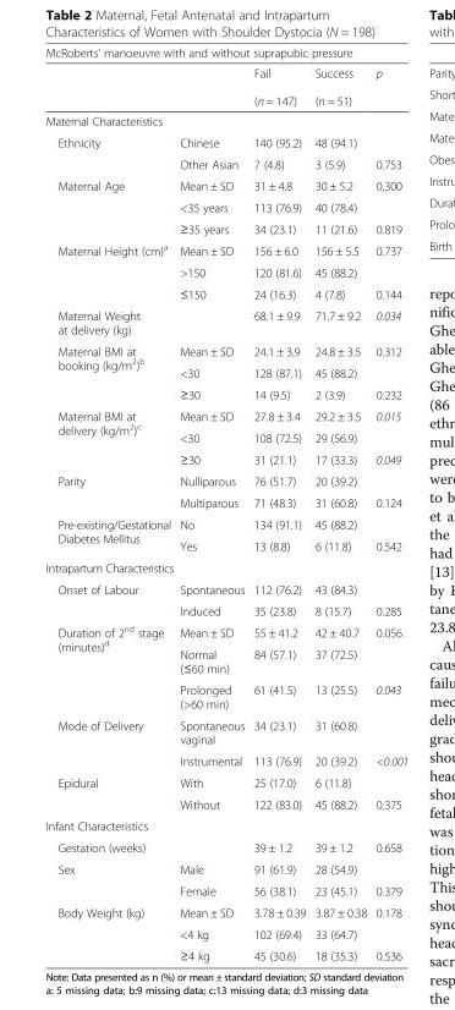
<table><thead><tr><td colspan="5">McRoberts’ manoeuvre with and without suprapubic pressure</td></tr><tr><td></td><td></td><td>Fail (n = 147)</td><td>Success (n = 51)</td><td>p</td></tr></thead><tbody><tr><td colspan="5">Maternal Characteristics</td></tr><tr><td rowspan="2">Ethnicity</td><td>Chinese</td><td>140 (95.2)</td><td>48 (94.1)</td><td></td></tr><tr><td>Other Asian</td><td>7 (4.8)</td><td>3 (5.9)</td><td>0.753</td></tr><tr><td rowspan="3">Maternal Age</td><td>Mean ± SD</td><td>31 ± 4.8</td><td>30 ± 5.2</td><td>0.300</td></tr><tr><td>&lt;35 years</td><td>113 (76.9)</td><td>40 (78.4)</td><td></td></tr><tr><td>≥35 years</td><td>34 (23.1)</td><td>11 (21.6)</td><td>0.819</td></tr><tr><td rowspan="3">Maternal Height (cm)<sup>a</sup></td><td>Mean ± SD</td><td>156 ± 6.0</td><td>156 ± 5.5</td><td>0.737</td></tr><tr><td>&gt;150</td><td>120 (81.6)</td><td>45 (88.2)</td><td></td></tr><tr><td>≤150</td><td>24 (16.3)</td><td>4 (7.8)</td><td>0.144</td></tr><tr><td>Maternal Weight at delivery (kg)</td><td></td><td>68.1 ± 9.9</td><td>71.7 ± 9.2</td><td>0.034</td></tr><tr><td rowspan="3">Maternal BMI at booking (kg/m<sup>2</sup>)<sup>b</sup></td><td>Mean ± SD</td><td>24.1 ± 3.9</td><td>24.8 ± 3.5</td><td>0.312</td></tr><tr><td>&lt;30</td><td>128 (87.1)</td><td>45 (88.2)</td><td></td></tr><tr><td>≥30</td><td>14 (9.5)</td><td>2 (3.9)</td><td>0.232</td></tr><tr><td rowspan="3">Maternal BMI at delivery (kg/m<sup>2</sup>)<sup>c</sup></td><td>Mean ± SD</td><td>27.8 ± 3.4</td><td>29.2 ± 3.5</td><td>0.015</td></tr><tr><td>&lt;30</td><td>108 (72.5)</td><td>29 (56.9)</td><td></td></tr><tr><td>≥30</td><td>31 (21.1)</td><td>17 (33.3)</td><td>0.049</td></tr><tr><td rowspan="2">Parity</td><td>Nulliparous</td><td>76 (51.7)</td><td>20 (39.2)</td><td></td></tr><tr><td>Multiparous</td><td>71 (48.3)</td><td>31 (60.8)</td><td>0.124</td></tr><tr><td rowspan="2">Pre-existing/Gestational Diabetes Mellitus</td><td>No</td><td>134 (91.1)</td><td>45 (88.2)</td><td></td></tr><tr><td>Yes</td><td>13 (8.8)</td><td>6 (11.8)</td><td>0.542</td></tr><tr><td colspan="5">Intrapartum Characteristics</td></tr><tr><td rowspan="2">Onset of Labour</td><td>Spontaneous</td><td>112 (76.2)</td><td>43 (84.3)</td><td></td></tr><tr><td>Induced</td><td>35 (23.8)</td><td>8 (15.7)</td><td>0.285</td></tr><tr><td rowspan="3">Duration of 2<sup>nd</sup> stage (minutes)<sup>d</sup></td><td>Mean ± SD</td><td>55 ± 41.2</td><td>42 ± 40.7</td><td>0.056</td></tr><tr><td>Normal (≤60 min)</td><td>84 (57.1)</td><td>37 (72.5)</td><td></td></tr><tr><td>Prolonged (&gt;60 min)</td><td>61 (41.5)</td><td>13 (25.5)</td><td>0.043</td></tr><tr><td rowspan="2">Mode of Delivery</td><td>Spontaneous vaginal</td><td>34 (23.1)</td><td>31 (60.8)</td><td></td></tr><tr><td>Instrumental</td><td>113 (76.9)</td><td>20 (39.2)</td><td>&lt;0.001</td></tr><tr><td rowspan="2">Epidural</td><td>With</td><td>25 (17.0)</td><td>6 (11.8)</td><td></td></tr><tr><td>Without</td><td>122 (83.0)</td><td>45 (88.2)</td><td>0.375</td></tr><tr><td colspan="5">Infant Characteristics</td></tr><tr><td>Gestation (weeks)</td><td></td><td>39 ± 1.2</td><td>39 ± 1.2</td><td>0.658</td></tr><tr><td rowspan="2">Sex</td><td>Male</td><td>91 (61.9)</td><td>28 (54.9)</td><td></td></tr><tr><td>Female</td><td>56 (38.1)</td><td>23 (45.1)</td><td>0.379</td></tr><tr><td rowspan="3">Body Weight (kg)</td><td>Mean ± SD</td><td>3.78 ± 0.39</td><td>3.87 ± 0.38</td><td>0.178</td></tr><tr><td>&lt;4 kg</td><td>102 (69.4)</td><td>33 (64.7)</td><td></td></tr><tr><td>≥4 kg</td><td>45 (30.6)</td><td>18 (35.3)</td><td>0.536</td></tr></tbody></table>